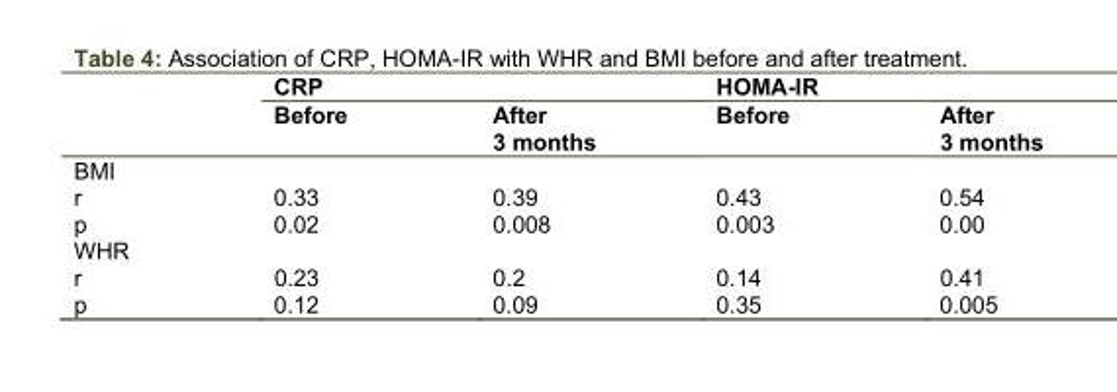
<table><thead><tr><td rowspan="2"></td><td colspan="2">CRP</td><td colspan="2">HOMA-IR</td></tr><tr><td>Before</td><td>After 3 months</td><td>Before</td><td>After 3 months</td></tr></thead><tbody><tr><td colspan="5">BMI</td></tr><tr><td>r</td><td>0.33</td><td>0.39</td><td>0.43</td><td>0.54</td></tr><tr><td>p</td><td>0.02</td><td>0.008</td><td>0.003</td><td>0.00</td></tr><tr><td colspan="5">WHR</td></tr><tr><td>r</td><td>0.23</td><td>0.2</td><td>0.14</td><td>0.41</td></tr><tr><td>p</td><td>0.12</td><td>0.09</td><td>0.35</td><td>0.005</td></tr></tbody></table>